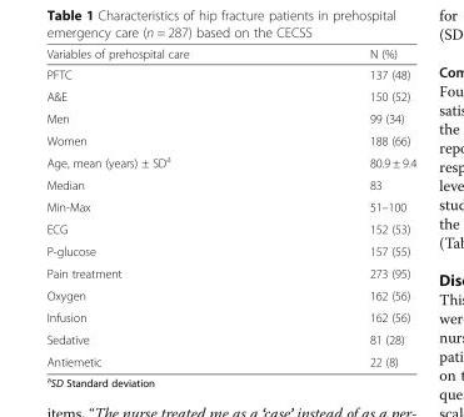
<table><thead><tr><td>Variables of prehospital care</td><td>N (%)</td></tr></thead><tbody><tr><td>PFTC</td><td>137 (48)</td></tr><tr><td>A&amp;E</td><td>150 (52)</td></tr><tr><td>Men</td><td>99 (34)</td></tr><tr><td>Women</td><td>188 (66)</td></tr><tr><td>Age, mean (years) ± SD<sup>a</sup></td><td>80.9 ± 9.4</td></tr><tr><td>Median</td><td>83</td></tr><tr><td>Min-Max</td><td>51–100</td></tr><tr><td>ECG</td><td>152 (53)</td></tr><tr><td>P-glucose</td><td>157 (55)</td></tr><tr><td>Pain treatment</td><td>273 (95)</td></tr><tr><td>Oxygen</td><td>162 (56)</td></tr><tr><td>Infusion</td><td>162 (56)</td></tr><tr><td>Sedative</td><td>81 (28)</td></tr><tr><td>Antiemetic</td><td>22 (8)</td></tr></tbody></table>